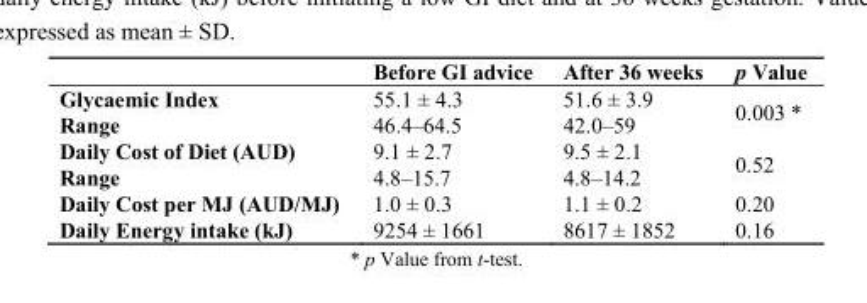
<table><thead><tr><td></td><td>Before GI advice</td><td>After 36 weeks</td><td>p Value</td></tr></thead><tbody><tr><td>Glycaemic Index Range</td><td>55.1 ± 4.3 46.4–64.5</td><td>51.6 ± 3.9 42.0–59</td><td>0.003 *</td></tr><tr><td>Daily Cost of Diet (AUD) Range</td><td>9.1 ± 2.7 4.8–15.7</td><td>9.5 ± 2.1 4.8–14.2</td><td>0.52</td></tr><tr><td>Daily Cost per MJ (AUD/MJ)</td><td>1.0 ± 0.3</td><td>1.1 ± 0.2</td><td>0.20</td></tr><tr><td>Daily Energy intake (kJ)</td><td>9254 ± 1661</td><td>8617 ± 1852</td><td>0.16</td></tr></tbody></table>